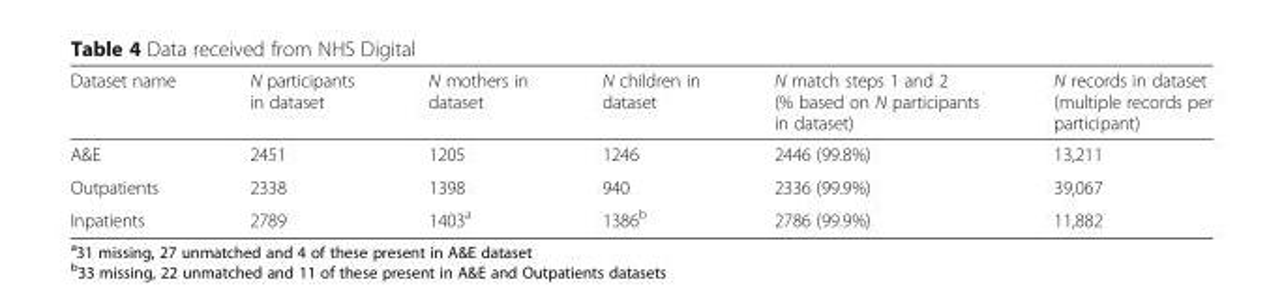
<table><thead><tr><td>Dataset name</td><td>N participants in dataset</td><td>N mothers in dataset</td><td>N children in dataset</td><td>N match steps 1 and 2 (% based on N participants in dataset)</td><td>N records in dataset (multiple records per participant)</td></tr></thead><tbody><tr><td>A&amp;E</td><td>2451</td><td>1205</td><td>1246</td><td>2446 (99.8%)</td><td>13,211</td></tr><tr><td>Outpatients</td><td>2338</td><td>1398</td><td>940</td><td>2336 (99.9%)</td><td>39,067</td></tr><tr><td>Inpatients</td><td>2789</td><td>1403<sup>a</sup></td><td>1386<sup>b</sup></td><td>2786 (99.9%)</td><td>11,882</td></tr></tbody></table>